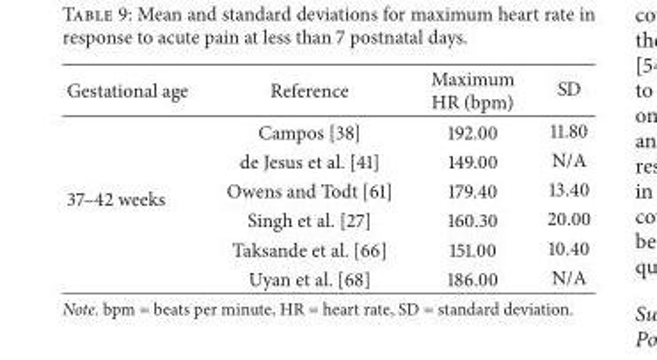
<table><thead><tr><td>Gestational age</td><td>Reference</td><td>Maximum HR (bpm)</td><td>SD</td></tr></thead><tbody><tr><td rowspan="6">37–42 weeks</td><td>Campos [38]</td><td>192.00</td><td>11.80</td></tr><tr><td>de Jesus et al. [41]</td><td>149.00</td><td>N/A</td></tr><tr><td>Owens and Todt [61]</td><td>179.40</td><td>13.40</td></tr><tr><td>Singh et al. [27]</td><td>160.30</td><td>20.00</td></tr><tr><td>Taksande et al. [66]</td><td>151.00</td><td>10.40</td></tr><tr><td>Uyan et al. [68]</td><td>186.00</td><td>N/A</td></tr></tbody></table>